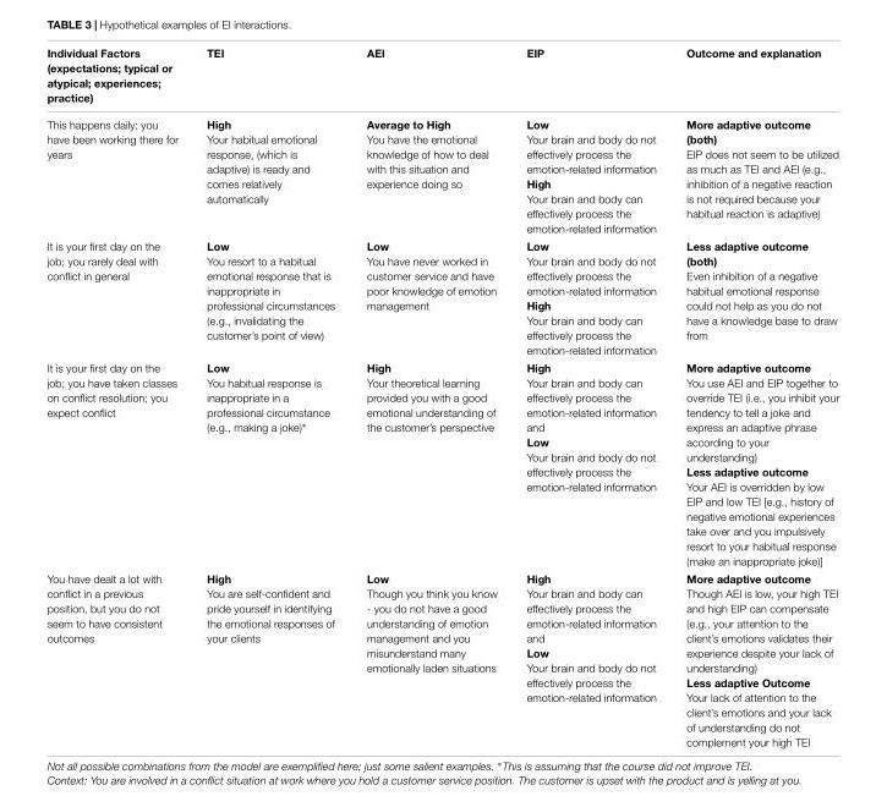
<table><thead><tr><td>Individual Factors (expectations; typical or atypical; experiences; practice)</td><td>TEI</td><td>AEI</td><td>EIP</td><td>Outcome and explanation</td></tr></thead><tbody><tr><td>This happens daily; you have been working there for years</td><td>High Your habitual emotional response, (which is adaptive) is ready and comes relatively automatically</td><td>Average to High You have the emotional knowledge of how to deal with this situation and experience doing so</td><td>Low Your brain and body do not effectively process the emotion-related information High Your brain and body can effectively process the emotion-related information</td><td>More adaptive outcome (both) EIP does not seem to be utilized as much as TEI and AEI (e.g., inhibition of a negative reaction is not required because your habitual reaction is adaptive)</td></tr><tr><td>It is your first day on the job; you rarely deal with conflict in general</td><td>Low You resort to a habitual emotional response that is inappropriate in professional circumstances (e.g., invalidating the customer’s point of view)</td><td>Low You have never worked in customer service and have poor knowledge of emotion management</td><td>Low Your brain and body do not effectively process the emotion-related information High Your brain and body can effectively process the emotion-related information</td><td>Less adaptive outcome (both) Even inhibition of a negative habitual emotional response could not help as you do not have a knowledge base to draw from</td></tr><tr><td>It is your first day on the job; you have taken classes on conflict resolution; you expect conflict</td><td>Low You habitual response is inappropriate in a professional circumstance (e.g., making a joke)∗</td><td>High Your theoretical learning provided you with a good emotional understanding of the customer’s perspective</td><td>High Your brain and body can effectively process the emotion-related information and Low Your brain and body do not effectively process the emotion-related information</td><td>More adaptive outcome You use AEI and EIP together to override TEI (i.e., you inhibit your tendency to tell a joke and express an adaptive phrase according to your understanding) Less adaptive outcome Your AEI is overridden by low EIP and low TEI [e.g., history of negative emotional experiences take over and you impulsively resort to your habitual response (make an inappropriate joke)]</td></tr><tr><td>You have dealt a lot with conflict in a previous position, but you do not seem to have consistent outcomes</td><td>High You are self-confident and pride yourself in identifying the emotional responses of your clients</td><td>Low Though you think you know - you do not have a good understanding of emotion management and you misunderstand many emotionally laden situations</td><td>High Your brain and body can effectively process the emotion-related information and Low Your brain and body do not effectively process the emotion-related information</td><td>More adaptive outcome Though AEI is low, your high TEI and high EIP can compensate (e.g., your attention to the client’s emotions validates their experience despite your lack of understanding) Less adaptive Outcome Your lack of attention to the client’s emotions and your lack of understanding do not complement your high TEI</td></tr></tbody></table>